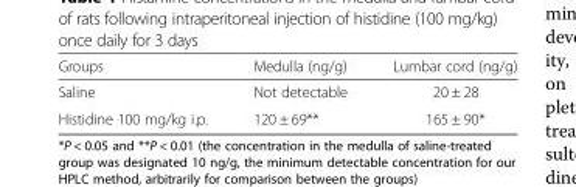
<table><thead><tr><td>Groups</td><td>Medulla (ng/g)</td><td>Lumbar cord (ng/g)</td></tr></thead><tbody><tr><td>Saline</td><td>Not detectable</td><td>20 ± 28</td></tr><tr><td>Histidine 100 mg/kg i.p.</td><td>120 ± 69**</td><td>165 ± 90*</td></tr></tbody></table>